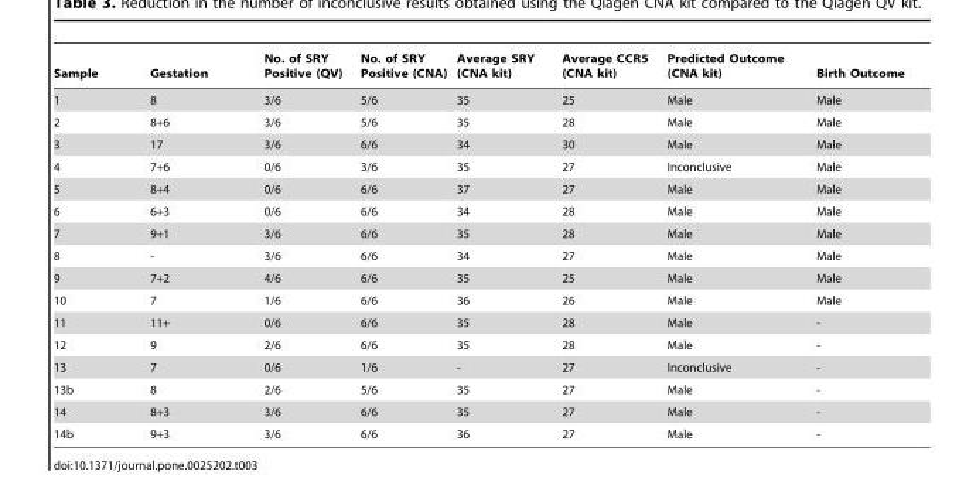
<table><thead><tr><td>Sample</td><td>Gestation</td><td>No. of SRY Positive (QV)</td><td>No. of SRY Positive (CNA)</td><td>Average SRY (CNA kit)</td><td>Average CCR5 (CNA kit)</td><td>Predicted Outcome (CNA kit)</td><td>Birth Outcome</td></tr></thead><tbody><tr><td>1</td><td>8</td><td>3/6</td><td>5/6</td><td>35</td><td>25</td><td>Male</td><td>Male</td></tr><tr><td>2</td><td>8+6</td><td>3/6</td><td>5/6</td><td>35</td><td>28</td><td>Male</td><td>Male</td></tr><tr><td>3</td><td>17</td><td>3/6</td><td>6/6</td><td>34</td><td>30</td><td>Male</td><td>Male</td></tr><tr><td>4</td><td>7+6</td><td>0/6</td><td>3/6</td><td>35</td><td>27</td><td>Inconclusive</td><td>Male</td></tr><tr><td>5</td><td>8+4</td><td>0/6</td><td>6/6</td><td>37</td><td>27</td><td>Male</td><td>Male</td></tr><tr><td>6</td><td>6+3</td><td>0/6</td><td>6/6</td><td>34</td><td>28</td><td>Male</td><td>Male</td></tr><tr><td>7</td><td>9+1</td><td>3/6</td><td>6/6</td><td>35</td><td>28</td><td>Male</td><td>Male</td></tr><tr><td>8</td><td>-</td><td>3/6</td><td>6/6</td><td>34</td><td>27</td><td>Male</td><td>Male</td></tr><tr><td>9</td><td>7+2</td><td>4/6</td><td>6/6</td><td>35</td><td>25</td><td>Male</td><td>Male</td></tr><tr><td>10</td><td>7</td><td>1/6</td><td>6/6</td><td>36</td><td>26</td><td>Male</td><td>Male</td></tr><tr><td>11</td><td>11+</td><td>0/6</td><td>6/6</td><td>35</td><td>28</td><td>Male</td><td>-</td></tr><tr><td>12</td><td>9</td><td>2/6</td><td>6/6</td><td>35</td><td>28</td><td>Male</td><td>-</td></tr><tr><td>13</td><td>7</td><td>0/6</td><td>1/6</td><td>-</td><td>27</td><td>Inconclusive</td><td>-</td></tr><tr><td>13b</td><td>8</td><td>2/6</td><td>5/6</td><td>35</td><td>27</td><td>Male</td><td>-</td></tr><tr><td>14</td><td>8+3</td><td>3/6</td><td>6/6</td><td>35</td><td>27</td><td>Male</td><td>-</td></tr><tr><td>14b</td><td>9+3</td><td>3/6</td><td>6/6</td><td>36</td><td>27</td><td>Male</td><td>-</td></tr></tbody></table>